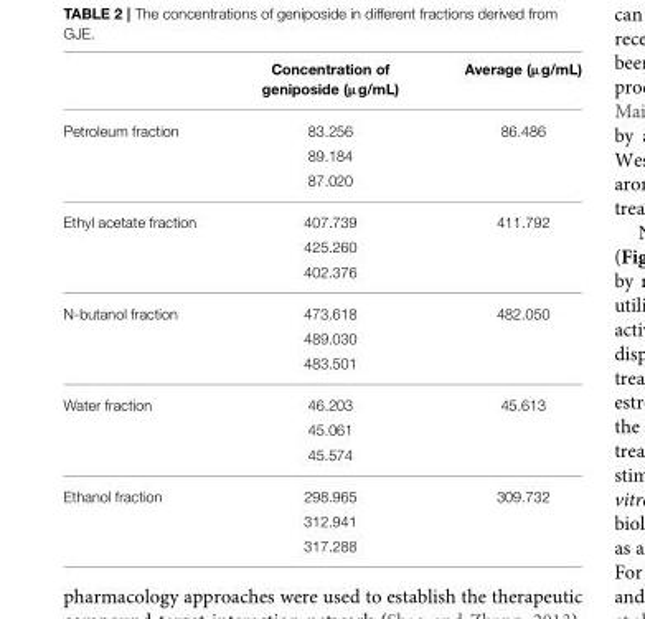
<table><thead><tr><td></td><td>Concentration of geniposide (µg/mL)</td><td>Average (µg/mL)</td></tr></thead><tbody><tr><td rowspan="3">Petroleum fraction</td><td>83.256</td><td>86.486</td></tr><tr><td>89.184</td><td></td></tr><tr><td>87.020</td><td></td></tr><tr><td rowspan="3">Ethyl acetate fraction</td><td>407.739</td><td>411.792</td></tr><tr><td>425.260</td><td></td></tr><tr><td>402.376</td><td></td></tr><tr><td rowspan="3">N-butanol fraction</td><td>473.618</td><td>482.050</td></tr><tr><td>489.030</td><td></td></tr><tr><td>483.501</td><td></td></tr><tr><td rowspan="3">Water fraction</td><td>46.203</td><td>45.613</td></tr><tr><td>45.061</td><td></td></tr><tr><td>45.574</td><td></td></tr><tr><td rowspan="3">Ethanol fraction</td><td>298.965</td><td>309.732</td></tr><tr><td>312.941</td><td></td></tr><tr><td>317.288</td><td></td></tr></tbody></table>